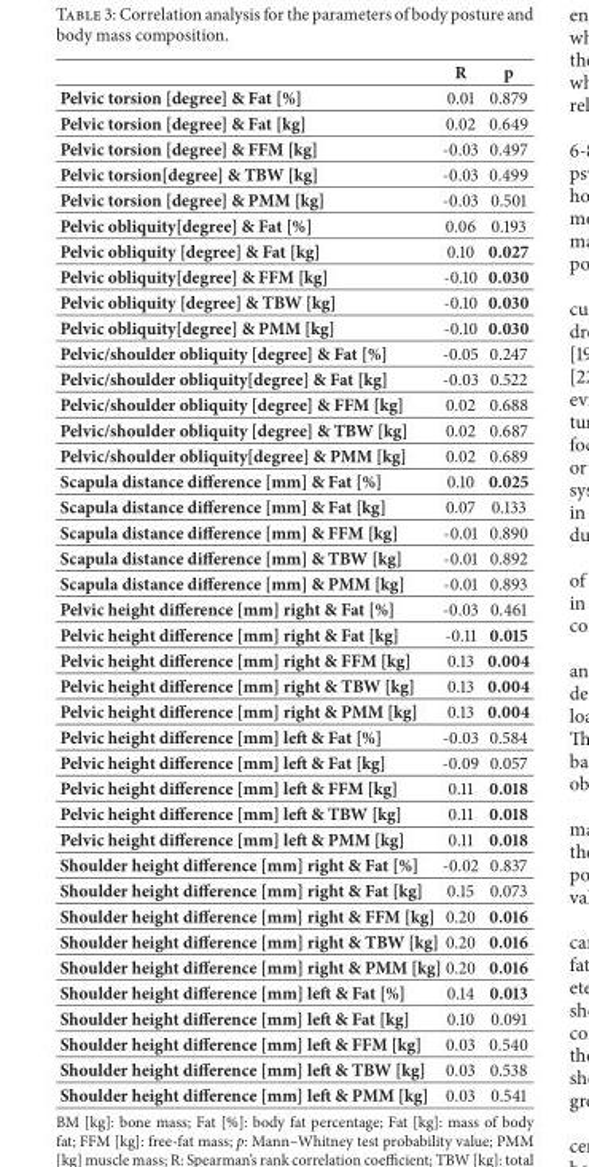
<table><thead><tr><td></td><td>R</td><td>p</td></tr></thead><tbody><tr><td>Pelvic torsion [degree] &amp; Fat [%]</td><td>0.01</td><td>0.879</td></tr><tr><td>Pelvic torsion [degree] &amp; Fat [kg]</td><td>0.02</td><td>0.649</td></tr><tr><td>Pelvic torsion [degree] &amp; FFM [kg]</td><td>-0.03</td><td>0.497</td></tr><tr><td>Pelvic torsion[degree] &amp; TBW [kg]</td><td>-0.03</td><td>0.499</td></tr><tr><td>Pelvic torsion [degree] &amp; PMM [kg]</td><td>-0.03</td><td>0.501</td></tr><tr><td>Pelvic obliquity[degree] &amp; Fat [%]</td><td>0.06</td><td>0.193</td></tr><tr><td>Pelvic obliquity [degree] &amp; Fat [kg]</td><td>0.10</td><td>0.027</td></tr><tr><td>Pelvic obliquity[degree] &amp; FFM [kg]</td><td>-0.10</td><td>0.030</td></tr><tr><td>Pelvic obliquity [degree] &amp; TBW [kg]</td><td>-0.10</td><td>0.030</td></tr><tr><td>Pelvic obliquity[degree] &amp; PMM [kg]</td><td>-0.10</td><td>0.030</td></tr><tr><td>Pelvic/shoulder obliquity [degree] &amp; Fat [%]</td><td>-0.05</td><td>0.247</td></tr><tr><td>Pelvic/shoulder obliquity[degree] &amp; Fat [kg]</td><td>-0.03</td><td>0.522</td></tr><tr><td>Pelvic/shoulder obliquity [degree] &amp; FFM [kg]</td><td>0.02</td><td>0.688</td></tr><tr><td>Pelvic/shoulder obliquity [degree] &amp; TBW [kg]</td><td>0.02</td><td>0.687</td></tr><tr><td>Pelvic/shoulder obliquity[degree] &amp; PMM [kg]</td><td>0.02</td><td>0.689</td></tr><tr><td>Scapula distance difference [mm] &amp; Fat [%]</td><td>0.10</td><td>0.025</td></tr><tr><td>Scapula distance difference [mm] &amp; Fat [kg]</td><td>0.07</td><td>0.133</td></tr><tr><td>Scapula distance difference [mm] &amp; FFM [kg]</td><td>-0.01</td><td>0.890</td></tr><tr><td>Scapula distance difference [mm] &amp; TBW [kg]</td><td>-0.01</td><td>0.892</td></tr><tr><td>Scapula distance difference [mm] &amp; PMM [kg]</td><td>-0.01</td><td>0.893</td></tr><tr><td>Pelvic height difference [mm] right &amp; Fat [%]</td><td>-0.03</td><td>0.461</td></tr><tr><td>Pelvic height difference [mm] right &amp; Fat [kg]</td><td>-0.11</td><td>0.015</td></tr><tr><td>Pelvic height difference [mm] right &amp; FFM [kg]</td><td>0.13</td><td>0.004</td></tr><tr><td>Pelvic height difference [mm] right &amp; TBW [kg]</td><td>0.13</td><td>0.004</td></tr><tr><td>Pelvic height difference [mm] right &amp; PMM [kg]</td><td>0.13</td><td>0.004</td></tr><tr><td>Pelvic height difference [mm] left &amp; Fat [%]</td><td>-0.03</td><td>0.584</td></tr><tr><td>Pelvic height difference [mm] left &amp; Fat [kg]</td><td>-0.09</td><td>0.057</td></tr><tr><td>Pelvic height difference [mm] left &amp; FFM [kg]</td><td>0.11</td><td>0.018</td></tr><tr><td>Pelvic height difference [mm] left &amp; TBW [kg]</td><td>0.11</td><td>0.018</td></tr><tr><td>Pelvic height difference [mm] left &amp; PMM [kg]</td><td>0.11</td><td>0.018</td></tr><tr><td>Shoulder height difference [mm] right &amp; Fat [%]</td><td>-0.02</td><td>0.837</td></tr><tr><td>Shoulder height difference [mm] right &amp; Fat [kg]</td><td>0.15</td><td>0.073</td></tr><tr><td>Shoulder height difference [mm] right &amp; FFM [kg]</td><td>0.20</td><td>0.016</td></tr><tr><td>Shoulder height difference [mm] right &amp; TBW [kg]</td><td>0.20</td><td>0.016</td></tr><tr><td>Shoulder height difference [mm] right &amp; PMM [kg]</td><td>0.20</td><td>0.016</td></tr><tr><td>Shoulder height difference [mm] left &amp; Fat [%]</td><td>0.14</td><td>0.013</td></tr><tr><td>Shoulder height difference [mm] left &amp; Fat [kg]</td><td>0.10</td><td>0.091</td></tr><tr><td>Shoulder height difference [mm] left &amp; FFM [kg]</td><td>0.03</td><td>0.540</td></tr><tr><td>Shoulder height difference [mm] left &amp; TBW [kg]</td><td>0.03</td><td>0.538</td></tr><tr><td>Shoulder height difference [mm] left &amp; PMM [kg]</td><td>0.03</td><td>0.541</td></tr></tbody></table>